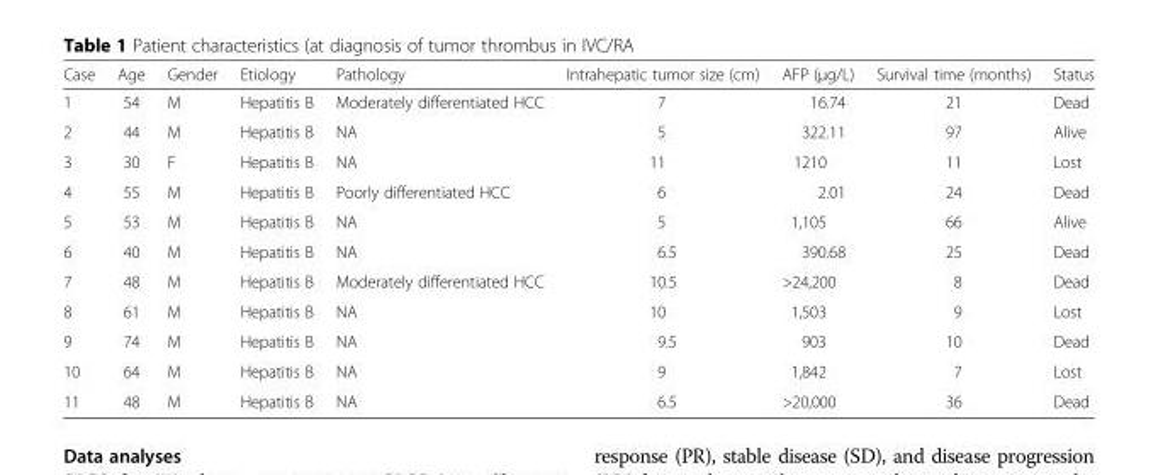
<table><thead><tr><td>Case</td><td>Age</td><td>Gender</td><td>Etiology</td><td>Pathology</td><td>Intrahepatic tumor size (cm)</td><td>AFP (μg/L)</td><td>Survival time (months)</td><td>Status</td></tr></thead><tbody><tr><td>1</td><td>54</td><td>M</td><td>Hepatitis B</td><td>Moderately differentiated HCC</td><td>7</td><td>16.74</td><td>21</td><td>Dead</td></tr><tr><td>2</td><td>44</td><td>M</td><td>Hepatitis B</td><td>NA</td><td>5</td><td>322.11</td><td>97</td><td>Alive</td></tr><tr><td>3</td><td>30</td><td>F</td><td>Hepatitis B</td><td>NA</td><td>11</td><td>1210</td><td>11</td><td>Lost</td></tr><tr><td>4</td><td>55</td><td>M</td><td>Hepatitis B</td><td>Poorly differentiated HCC</td><td>6</td><td>2.01</td><td>24</td><td>Dead</td></tr><tr><td>5</td><td>53</td><td>M</td><td>Hepatitis B</td><td>NA</td><td>5</td><td>1,105</td><td>66</td><td>Alive</td></tr><tr><td>6</td><td>40</td><td>M</td><td>Hepatitis B</td><td>NA</td><td>6.5</td><td>390.68</td><td>25</td><td>Dead</td></tr><tr><td>7</td><td>48</td><td>M</td><td>Hepatitis B</td><td>Moderately differentiated HCC</td><td>10.5</td><td>&gt;24,200</td><td>8</td><td>Dead</td></tr><tr><td>8</td><td>61</td><td>M</td><td>Hepatitis B</td><td>NA</td><td>10</td><td>1,503</td><td>9</td><td>Lost</td></tr><tr><td>9</td><td>74</td><td>M</td><td>Hepatitis B</td><td>NA</td><td>9.5</td><td>903</td><td>10</td><td>Dead</td></tr><tr><td>10</td><td>64</td><td>M</td><td>Hepatitis B</td><td>NA</td><td>9</td><td>1,842</td><td>7</td><td>Lost</td></tr><tr><td>11</td><td>48</td><td>M</td><td>Hepatitis B</td><td>NA</td><td>6.5</td><td>&gt;20,000</td><td>36</td><td>Dead</td></tr></tbody></table>